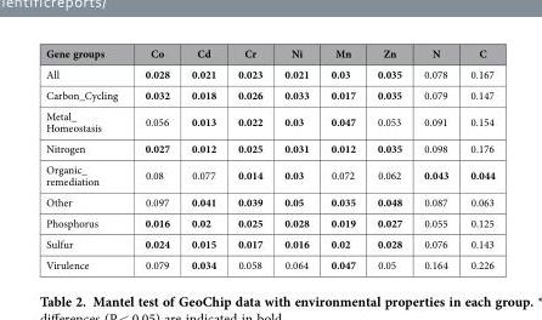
<table><thead><tr><td>Gene groups</td><td>Co</td><td>Cd</td><td>Cr</td><td>Ni</td><td>Mn</td><td>Zn</td><td>N</td><td>C</td></tr></thead><tbody><tr><td>All</td><td>0.028</td><td>0.021</td><td>0.023</td><td>0.021</td><td>0.03</td><td>0.035</td><td>0.078</td><td>0.167</td></tr><tr><td>Carbon_Cycling</td><td>0.032</td><td>0.018</td><td>0.026</td><td>0.033</td><td>0.017</td><td>0.035</td><td>0.079</td><td>0.147</td></tr><tr><td>Metal_ Homeostasis</td><td>0.056</td><td>0.013</td><td>0.022</td><td>0.03</td><td>0.047</td><td>0.053</td><td>0.091</td><td>0.154</td></tr><tr><td>Nitrogen</td><td>0.027</td><td>0.012</td><td>0.025</td><td>0.031</td><td>0.012</td><td>0.035</td><td>0.098</td><td>0.176</td></tr><tr><td>Organic_ remediation</td><td>0.08</td><td>0.077</td><td>0.014</td><td>0.03</td><td>0.072</td><td>0.062</td><td>0.043</td><td>0.044</td></tr><tr><td>Other</td><td>0.097</td><td>0.041</td><td>0.039</td><td>0.05</td><td>0.035</td><td>0.048</td><td>0.087</td><td>0.063</td></tr><tr><td>Phosphorus</td><td>0.016</td><td>0.02</td><td>0.025</td><td>0.028</td><td>0.019</td><td>0.027</td><td>0.055</td><td>0.125</td></tr><tr><td>Sulfur</td><td>0.024</td><td>0.015</td><td>0.017</td><td>0.016</td><td>0.02</td><td>0.028</td><td>0.076</td><td>0.143</td></tr><tr><td>Virulence</td><td>0.079</td><td>0.034</td><td>0.058</td><td>0.064</td><td>0.047</td><td>0.05</td><td>0.164</td><td>0.226</td></tr></tbody></table>